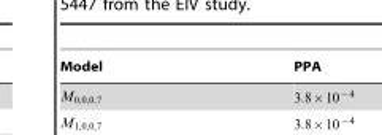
<table><thead><tr><td>Model</td><td>PPA</td></tr></thead><tbody></tbody></table>